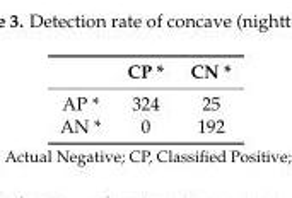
<table><thead><tr><td></td><td>CP *</td><td>CN *</td></tr></thead><tbody><tr><td>AP *</td><td>324</td><td>25</td></tr><tr><td>AN *</td><td>0</td><td>192</td></tr></tbody></table>